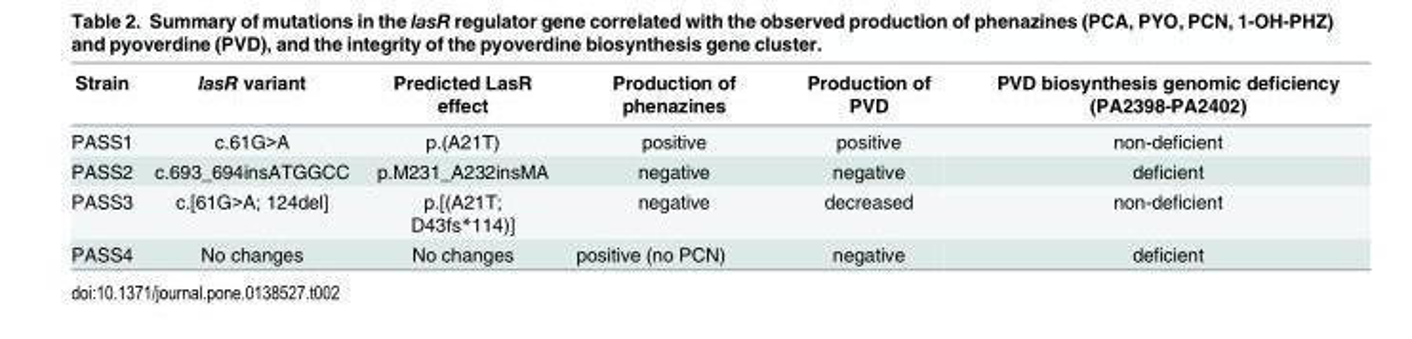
<table><thead><tr><td>Strain</td><td>lasR variant</td><td>Predicted LasR effect</td><td>Production of phenazines</td><td>Production of PVD</td><td>PVD biosynthesis genomic deficiency (PA2398-PA2402)</td></tr></thead><tbody><tr><td>PASS1</td><td>c.61G&gt;A</td><td>p.(A21T)</td><td>positive</td><td>positive</td><td>non-deficient</td></tr><tr><td>PASS2</td><td>c.693_694insATGGCC</td><td>p.M231_A232insMA</td><td>negative</td><td>negative</td><td>deficient</td></tr><tr><td>PASS3</td><td>c.[61G&gt;A; 124del]</td><td>p.[(A21T; D43fs*114)]</td><td>negative</td><td>decreased</td><td>non-deficient</td></tr><tr><td>PASS4</td><td>No changes</td><td>No changes</td><td>positive (no PCN)</td><td>negative</td><td>deficient</td></tr></tbody></table>